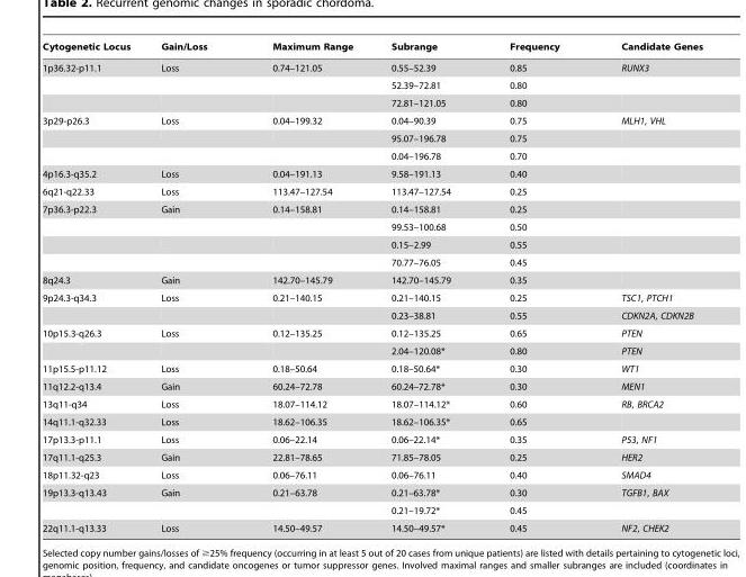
<table><thead><tr><td>Cytogenetic Locus</td><td>Gain/Loss</td><td>Maximum Range</td><td>Subrange</td><td>Frequency</td><td>Candidate Genes</td></tr></thead><tbody><tr><td rowspan="3">1p36.32-p11.1</td><td>Loss</td><td>0.74–121.05</td><td>0.55–52.39</td><td>0.85</td><td>RUNX3</td></tr><tr><td></td><td></td><td>52.39–72.81</td><td>0.80</td><td></td></tr><tr><td></td><td></td><td>72.81–121.05</td><td>0.80</td><td></td></tr><tr><td rowspan="3">3p29-p26.3</td><td>Loss</td><td>0.04–199.32</td><td>0.04–90.39</td><td>0.75</td><td>MLH1, VHL</td></tr><tr><td></td><td></td><td>95.07–196.78</td><td>0.75</td><td></td></tr><tr><td></td><td></td><td>0.04–196.78</td><td>0.70</td><td></td></tr><tr><td>4p16.3-q35.2</td><td>Loss</td><td>0.04–191.13</td><td>9.58–191.13</td><td>0.40</td><td></td></tr><tr><td>6q21-q22.33</td><td>Loss</td><td>113.47–127.54</td><td>113.47–127.54</td><td>0.25</td><td></td></tr><tr><td rowspan="4">7p36.3-p22.3</td><td>Gain</td><td>0.14–158.81</td><td>0.14–158.81</td><td>0.25</td><td></td></tr><tr><td></td><td></td><td>99.53–100.68</td><td>0.50</td><td></td></tr><tr><td></td><td></td><td>0.15–2.99</td><td>0.55</td><td></td></tr><tr><td></td><td></td><td>70.77–76.05</td><td>0.45</td><td></td></tr><tr><td>8q24.3</td><td>Gain</td><td>142.70–145.79</td><td>142.70–145.79</td><td>0.35</td><td></td></tr><tr><td rowspan="2">9p24.3-q34.3</td><td>Loss</td><td>0.21–140.15</td><td>0.21–140.15</td><td>0.25</td><td>TSC1, PTCH1</td></tr><tr><td></td><td></td><td>0.23–38.81</td><td>0.55</td><td>CDKN2A, CDKN2B</td></tr><tr><td rowspan="2">10p15.3-q26.3</td><td>Loss</td><td>0.12–135.25</td><td>0.12–135.25</td><td>0.65</td><td>PTEN</td></tr><tr><td></td><td></td><td>2.04–120.08*</td><td>0.80</td><td>PTEN</td></tr><tr><td>11p15.5-p11.12</td><td>Loss</td><td>0.18–50.64</td><td>0.18–50.64*</td><td>0.30</td><td>WT1</td></tr><tr><td>11q12.2-q13.4</td><td>Gain</td><td>60.24–72.78</td><td>60.24–72.78*</td><td>0.30</td><td>MEN1</td></tr><tr><td>13q11-q34</td><td>Loss</td><td>18.07–114.12</td><td>18.07–114.12*</td><td>0.60</td><td>RB, BRCA2</td></tr><tr><td>14q11.1-q32.33</td><td>Loss</td><td>18.62–106.35</td><td>18.62–106.35*</td><td>0.65</td><td></td></tr><tr><td>17p13.3-p11.1</td><td>Loss</td><td>0.06–22.14</td><td>0.06–22.14*</td><td>0.35</td><td>P53, NF1</td></tr><tr><td>17q11.1-q25.3</td><td>Gain</td><td>22.81–78.65</td><td>71.85–78.05</td><td>0.25</td><td>HER2</td></tr><tr><td>18p11.32-q23</td><td>Loss</td><td>0.06–76.11</td><td>0.06–76.11</td><td>0.40</td><td>SMAD4</td></tr><tr><td rowspan="2">19p13.3-q13.43</td><td>Gain</td><td>0.21–63.78</td><td>0.21–63.78*</td><td>0.30</td><td>TGFB1, BAX</td></tr><tr><td></td><td></td><td>0.21–19.72*</td><td>0.45</td><td></td></tr><tr><td>22q11.1-q13.33</td><td>Loss</td><td>14.50–49.57</td><td>14.50–49.57*</td><td>0.45</td><td>NF2, CHEK2</td></tr></tbody></table>